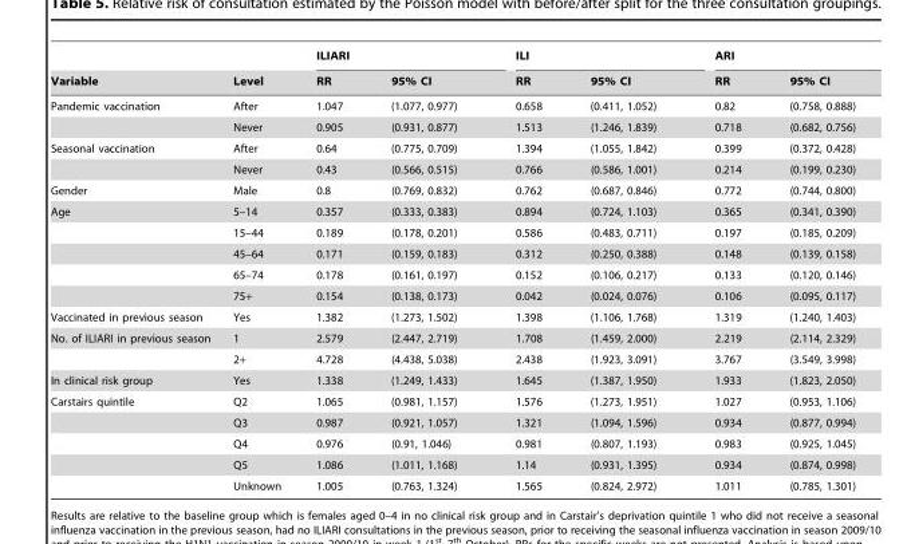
<table><thead><tr><td rowspan="2">Variable</td><td rowspan="2">Level</td><td colspan="2">ILIARI</td><td colspan="2">ILI</td><td colspan="2">ARI</td></tr><tr><td>RR</td><td>95% CI</td><td>RR</td><td>95% CI</td><td>RR</td><td>95% CI</td></tr></thead><tbody><tr><td rowspan="2">Pandemic vaccination</td><td>After</td><td>1.047</td><td>(1.077, 0.977)</td><td>0.658</td><td>(0.411, 1.052)</td><td>0.82</td><td>(0.758, 0.888)</td></tr><tr><td>Never</td><td>0.905</td><td>(0.931, 0.877)</td><td>1.513</td><td>(1.246, 1.839)</td><td>0.718</td><td>(0.682, 0.756)</td></tr><tr><td rowspan="2">Seasonal vaccination</td><td>After</td><td>0.64</td><td>(0.775, 0.709)</td><td>1.394</td><td>(1.055, 1.842)</td><td>0.399</td><td>(0.372, 0.428)</td></tr><tr><td>Never</td><td>0.43</td><td>(0.566, 0.515)</td><td>0.766</td><td>(0.586, 1.001)</td><td>0.214</td><td>(0.199, 0.230)</td></tr><tr><td>Gender</td><td>Male</td><td>0.8</td><td>(0.769, 0.832)</td><td>0.762</td><td>(0.687, 0.846)</td><td>0.772</td><td>(0.744, 0.800)</td></tr><tr><td rowspan="5">Age</td><td>5–14</td><td>0.357</td><td>(0.333, 0.383)</td><td>0.894</td><td>(0.724, 1.103)</td><td>0.365</td><td>(0.341, 0.390)</td></tr><tr><td>15–44</td><td>0.189</td><td>(0.178, 0.201)</td><td>0.586</td><td>(0.483, 0.711)</td><td>0.197</td><td>(0.185, 0.209)</td></tr><tr><td>45–64</td><td>0.171</td><td>(0.159, 0.183)</td><td>0.312</td><td>(0.250, 0.388)</td><td>0.148</td><td>(0.139, 0.158)</td></tr><tr><td>65–74</td><td>0.178</td><td>(0.161, 0.197)</td><td>0.152</td><td>(0.106, 0.217)</td><td>0.133</td><td>(0.120, 0.146)</td></tr><tr><td>75+</td><td>0.154</td><td>(0.138, 0.173)</td><td>0.042</td><td>(0.024, 0.076)</td><td>0.106</td><td>(0.095, 0.117)</td></tr><tr><td>Vaccinated in previous season</td><td>Yes</td><td>1.382</td><td>(1.273, 1.502)</td><td>1.398</td><td>(1.106, 1.768)</td><td>1.319</td><td>(1.240, 1.403)</td></tr><tr><td rowspan="2">No. of ILIARI in previous season</td><td>1</td><td>2.579</td><td>(2.447, 2.719)</td><td>1.708</td><td>(1.459, 2.000)</td><td>2.219</td><td>(2.114, 2.329)</td></tr><tr><td>2+</td><td>4.728</td><td>(4.438, 5.038)</td><td>2.438</td><td>(1.923, 3.091)</td><td>3.767</td><td>(3.549, 3.998)</td></tr><tr><td>In clinical risk group</td><td>Yes</td><td>1.338</td><td>(1.249, 1.433)</td><td>1.645</td><td>(1.387, 1.950)</td><td>1.933</td><td>(1.823, 2.050)</td></tr><tr><td rowspan="5">Carstairs quintile</td><td>Q2</td><td>1.065</td><td>(0.981, 1.157)</td><td>1.576</td><td>(1.273, 1.951)</td><td>1.027</td><td>(0.953, 1.106)</td></tr><tr><td>Q3</td><td>0.987</td><td>(0.921, 1.057)</td><td>1.321</td><td>(1.094, 1.596)</td><td>0.934</td><td>(0.877, 0.994)</td></tr><tr><td>Q4</td><td>0.976</td><td>(0.91, 1.046)</td><td>0.981</td><td>(0.807, 1.193)</td><td>0.983</td><td>(0.925, 1.045)</td></tr><tr><td>Q5</td><td>1.086</td><td>(1.011, 1.168)</td><td>1.14</td><td>(0.931, 1.395)</td><td>0.934</td><td>(0.874, 0.998)</td></tr><tr><td>Unknown</td><td>1.005</td><td>(0.763, 1.324)</td><td>1.565</td><td>(0.824, 2.972)</td><td>1.011</td><td>(0.785, 1.301)</td></tr></tbody></table>